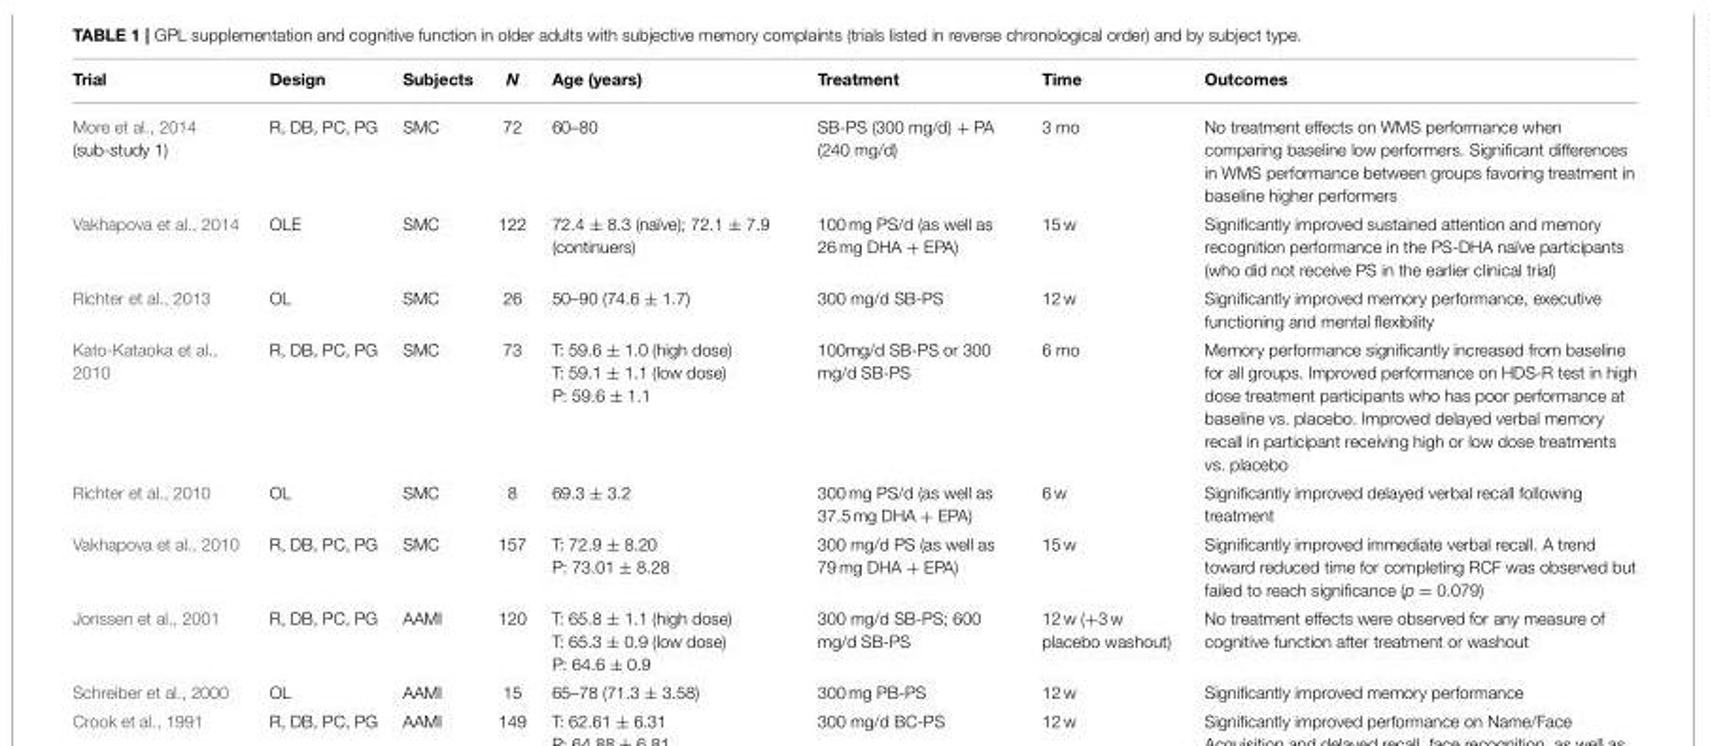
<table><thead><tr><td>Trial</td><td>Design</td><td>Subjects</td><td>N</td><td>Age (years)</td><td>Treatment</td><td>Time</td><td>Outcomes</td></tr></thead><tbody><tr><td>More et al., 2014 (sub-study 1)</td><td>R, DB, PC, PG</td><td>SMC</td><td>72</td><td>60–80</td><td>SB-PS (300 mg/d) + PA (240 mg/d)</td><td>3 mo</td><td>No treatment effects on WMS performance when comparing baseline low performers. Significant differences in WMS performance between groups favoring treatment in baseline higher performers</td></tr><tr><td>Vakhapova et al., 2014</td><td>OLE</td><td>SMC</td><td>122</td><td>72.4 ± 8.3 (naïve); 72.1 ± 7.9 (continuers)</td><td>100 mg PS/d (as well as 26 mg DHA + EPA)</td><td>15 w</td><td>Significantly improved sustained attention and memory recognition performance in the PS-DHA naïve participants (who did not receive PS in the earlier clinical trial)</td></tr><tr><td>Richter et al., 2013</td><td>OL</td><td>SMC</td><td>26</td><td>50–90 (74.6 ± 1.7)</td><td>300 mg/d SB-PS</td><td>12 w</td><td>Significantly improved memory performance, executive functioning and mental flexibility</td></tr><tr><td>Kato-Kataoka et al., 2010</td><td>R, DB, PC, PG</td><td>SMC</td><td>73</td><td>T: 59.6 ± 1.0 (high dose) T: 59.1 ± 1.1 (low dose) P: 59.6 ± 1.1</td><td>100mg/d SB-PS or 300 mg/d SB-PS</td><td>6 mo</td><td>Memory performance significantly increased from baseline for all groups. Improved performance on HDS-R test in high dose treatment participants who has poor performance at baseline vs. placebo. Improved delayed verbal memory recall in participant receiving high or low dose treatments vs. placebo</td></tr><tr><td>Richter et al., 2010</td><td>OL</td><td>SMC</td><td>8</td><td>69.3 ± 3.2</td><td>300 mg PS/d (as well as 37.5 mg DHA + EPA)</td><td>6 w</td><td>Significantly improved delayed verbal recall following treatment</td></tr><tr><td>Vakhapova et al., 2010</td><td>R, DB, PC, PG</td><td>SMC</td><td>157</td><td>T: 72.9 ± 8.20 P: 73.01 ± 8.28</td><td>300 mg/d PS (as well as 79 mg DHA + EPA)</td><td>15 w</td><td>Significantly improved immediate verbal recall. A trend toward reduced time for completing RCF was observed but failed to reach significance (p = 0.079)</td></tr><tr><td>Jorissen et al., 2001</td><td>R, DB, PC, PG</td><td>AAMI</td><td>120</td><td>T: 65.8 ± 1.1 (high dose) T: 65.3 ± 0.9 (low dose) P: 64.6 ± 0.9</td><td>300 mg/d SB-PS; 600 mg/d SB-PS</td><td>12 w (+3 w placebo washout)</td><td>No treatment effects were observed for any measure of cognitive function after treatment or washout</td></tr></tbody></table>